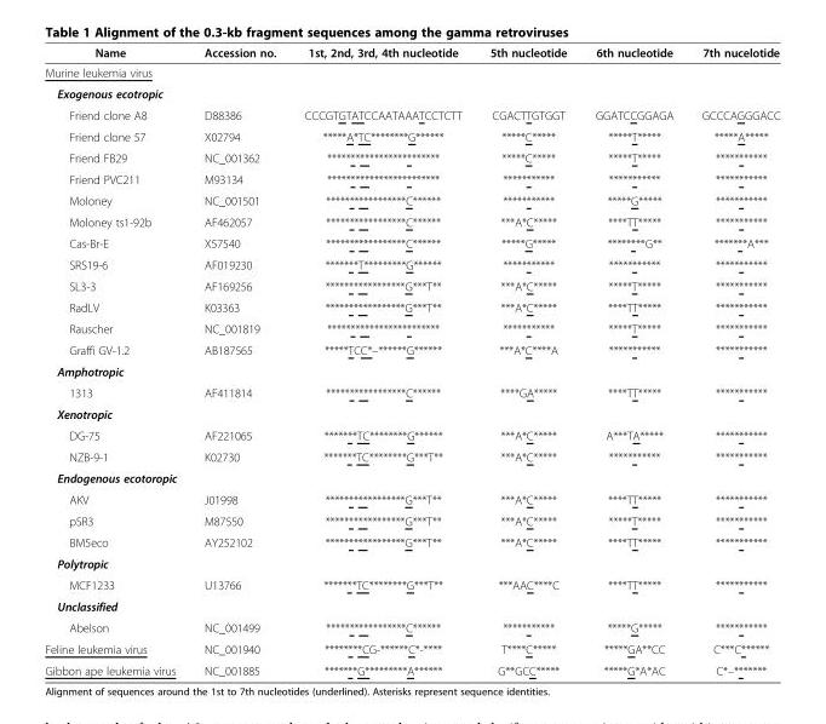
<table><thead><tr><td>Name</td><td>Accession no.</td><td>1st, 2nd, 3rd, 4th nucleotide</td><td>5th nucleotide</td><td>6th nucleotide</td><td>7th nucelotide</td></tr></thead><tbody><tr><td colspan="6">Murine leukemia virus</td></tr><tr><td colspan="6">Exogenous ecotropic</td></tr><tr><td>Friend clone A8</td><td>D88386</td><td>CCCGTGTATCCAATAAATCCTCTT</td><td>CGACTTGTGGT</td><td>GGATCCGGAGA</td><td>GCCCAGGGACC</td></tr><tr><td>Friend clone 57</td><td>X02794</td><td>*****A*TC********G******</td><td>*****C*****</td><td>*****T*****</td><td>*****A*****</td></tr><tr><td>Friend FB29</td><td>NC_001362</td><td>************************</td><td>*****C*****</td><td>*****T*****</td><td>***********</td></tr><tr><td>Friend PVC211</td><td>M93134</td><td>************************</td><td>***********</td><td>***********</td><td>***********</td></tr><tr><td>Moloney</td><td>NC_001501</td><td>*****************C******</td><td>***********</td><td>*****G*****</td><td>***********</td></tr><tr><td>Moloney ts1-92b</td><td>AF462057</td><td>*****************C******</td><td>***A*C*****</td><td>****TT*****</td><td>***********</td></tr><tr><td>Cas-Br-E</td><td>X57540</td><td>*****************C******</td><td>*****G*****</td><td>********G**</td><td>*******A***</td></tr><tr><td>SRS19-6</td><td>AF019230</td><td>*******T*********G******</td><td>***********</td><td>***********</td><td>***********</td></tr><tr><td>SL3-3</td><td>AF169256</td><td>*****************G***T**</td><td>***A*C*****</td><td>*****T*****</td><td>***********</td></tr><tr><td>RadLV</td><td>K03363</td><td>*****************G***T**</td><td>***A*C*****</td><td>****TT*****</td><td>***********</td></tr><tr><td>Rauscher</td><td>NC_001819</td><td>************************</td><td>***********</td><td>*****T*****</td><td>***********</td></tr><tr><td>Graffi GV-1.2</td><td>AB187565</td><td>*****TCC*–******G******</td><td>***A*C****A</td><td>***********</td><td>***********</td></tr><tr><td colspan="6">Amphotropic</td></tr><tr><td>1313</td><td>AF411814</td><td>*****************C******</td><td>****GA*****</td><td>****TT*****</td><td>***********</td></tr><tr><td colspan="6">Xenotropic</td></tr><tr><td>DG-75</td><td>AF221065</td><td>*******TC********G******</td><td>***A*C*****</td><td>A***TA*****</td><td>***********</td></tr><tr><td>NZB-9-1</td><td>K02730</td><td>*******TC********G***T**</td><td>***A*C*****</td><td>***********</td><td>***********</td></tr><tr><td colspan="6">Endogenous ecotoropic</td></tr><tr><td>AKV</td><td>J01998</td><td>*****************G***T**</td><td>***A*C*****</td><td>****TT*****</td><td>***********</td></tr><tr><td>pSR3</td><td>M87550</td><td>*****************G***T**</td><td>***A*C*****</td><td>*****T*****</td><td>***********</td></tr><tr><td>BM5eco</td><td>AY252102</td><td>*****************G***T**</td><td>***A*C*****</td><td>****TT*****</td><td>***********</td></tr><tr><td colspan="6">Polytropic</td></tr><tr><td>MCF1233</td><td>U13766</td><td>*******TC********G***T**</td><td>***AAC****C</td><td>****TT*****</td><td>***********</td></tr><tr><td colspan="6">Unclassified</td></tr><tr><td>Abelson</td><td>NC_001499</td><td>*****************C******</td><td>***********</td><td>*****G*****</td><td>***********</td></tr><tr><td>Feline leukemia virus</td><td>NC_001940</td><td>********CG-******C*-****</td><td>T****C*****</td><td>*****GA**CC</td><td>C***C******</td></tr><tr><td>Gibbon ape leukemia virus</td><td>NC_001885</td><td>*******G*********A******</td><td>G**GCC*****</td><td>*****G*A*AC</td><td>C*–*******</td></tr></tbody></table>